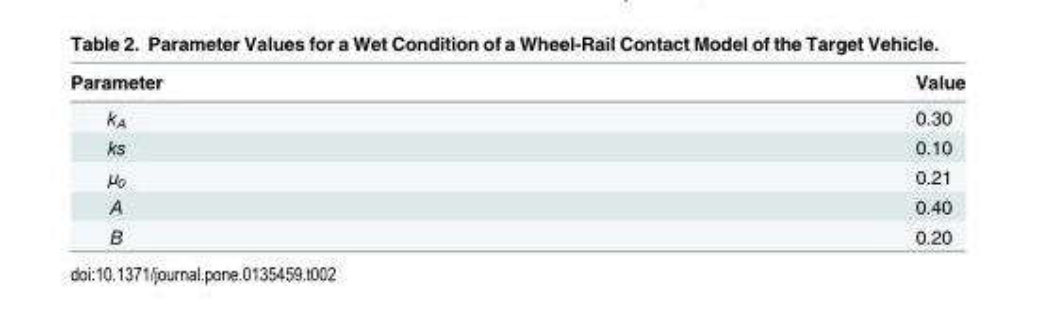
<table><thead><tr><td>Parameter</td><td>Value</td></tr></thead><tbody><tr><td>k<sub>A</sub></td><td>0.30</td></tr><tr><td>ks</td><td>0.10</td></tr><tr><td>μ<sub>0</sub></td><td>0.21</td></tr><tr><td>A</td><td>0.40</td></tr><tr><td>B</td><td>0.20</td></tr></tbody></table>